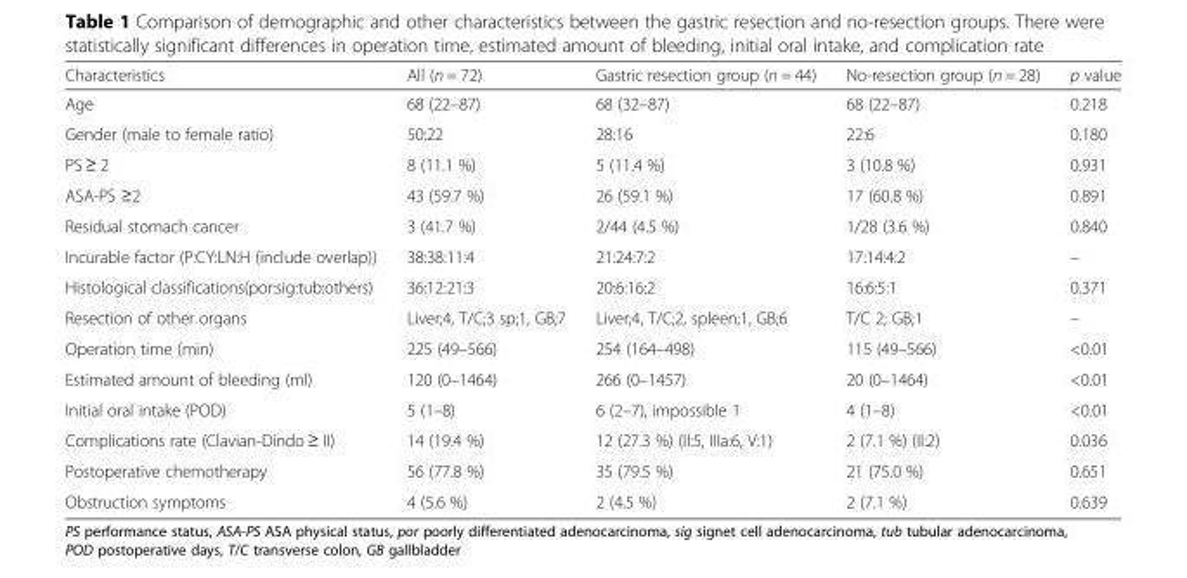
<table><thead><tr><td>Characteristics</td><td>All (n = 72)</td><td>Gastric resection group (n = 44)</td><td>No-resection group (n = 28)</td><td>p value</td></tr></thead><tbody><tr><td>Age</td><td>68 (22–87)</td><td>68 (32–87)</td><td>68 (22–87)</td><td>0.218</td></tr><tr><td>Gender (male to female ratio)</td><td>50:22</td><td>28:16</td><td>22:6</td><td>0.180</td></tr><tr><td>PS ≥ 2</td><td>8 (11.1 %)</td><td>5 (11.4 %)</td><td>3 (10.8 %)</td><td>0.931</td></tr><tr><td>ASA-PS ≥2</td><td>43 (59.7 %)</td><td>26 (59.1 %)</td><td>17 (60.8 %)</td><td>0.891</td></tr><tr><td>Residual stomach cancer</td><td>3 (41.7 %)</td><td>2/44 (4.5 %)</td><td>1/28 (3.6 %)</td><td>0.840</td></tr><tr><td>Incurable factor (P:CY:LN:H (include overlap))</td><td>38:38:11:4</td><td>21:24:7:2</td><td>17:14:4:2</td><td>–</td></tr><tr><td>Histological classifications(por:sig:tub:others)</td><td>36:12:21:3</td><td>20:6:16:2</td><td>16:6:5:1</td><td>0.371</td></tr><tr><td>Resection of other organs</td><td>Liver;4, T/C;3 sp;1, GB;7</td><td>Liver;4, T/C;2, spleen;1, GB;6</td><td>T/C 2; GB;1</td><td>–</td></tr><tr><td>Operation time (min)</td><td>225 (49–566)</td><td>254 (164–498)</td><td>115 (49–566)</td><td>&lt;0.01</td></tr><tr><td>Estimated amount of bleeding (ml)</td><td>120 (0–1464)</td><td>266 (0–1457)</td><td>20 (0–1464)</td><td>&lt;0.01</td></tr><tr><td>Initial oral intake (POD)</td><td>5 (1–8)</td><td>6 (2–7), impossible 1</td><td>4 (1–8)</td><td>&lt;0.01</td></tr><tr><td>Complications rate (Clavian-Dindo ≥ II)</td><td>14 (19.4 %)</td><td>12 (27.3 %) (II:5, IIIa:6, V:1)</td><td>2 (7.1 %) (II:2)</td><td>0.036</td></tr><tr><td>Postoperative chemotherapy</td><td>56 (77.8 %)</td><td>35 (79.5 %)</td><td>21 (75.0 %)</td><td>0.651</td></tr><tr><td>Obstruction symptoms</td><td>4 (5.6 %)</td><td>2 (4.5 %)</td><td>2 (7.1 %)</td><td>0.639</td></tr></tbody></table>